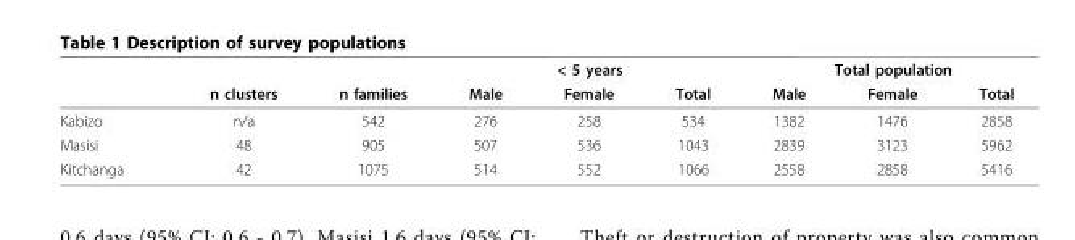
<table><thead><tr><td rowspan="2"></td><td rowspan="2">n clusters</td><td rowspan="2">n families</td><td colspan="3">&lt; 5 years</td><td colspan="3">Total population</td></tr><tr><td>Male</td><td>Female</td><td>Total</td><td>Male</td><td>Female</td><td>Total</td></tr></thead><tbody><tr><td>Kabizo</td><td>n/a</td><td>542</td><td>276</td><td>258</td><td>534</td><td>1382</td><td>1476</td><td>2858</td></tr><tr><td>Masisi</td><td>48</td><td>905</td><td>507</td><td>536</td><td>1043</td><td>2839</td><td>3123</td><td>5962</td></tr><tr><td>Kitchanga</td><td>42</td><td>1075</td><td>514</td><td>552</td><td>1066</td><td>2558</td><td>2858</td><td>5416</td></tr></tbody></table>